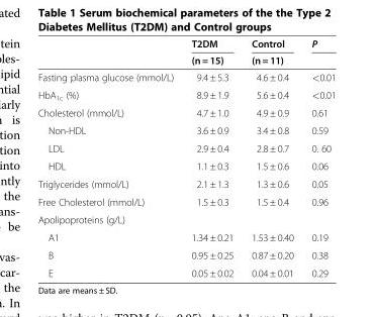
<table><thead><tr><td rowspan="2"></td><td rowspan="2">T2DM (n = 15)</td><td rowspan="2">Control (n = 11)</td><td rowspan="2">P</td></tr><tr></tr></thead><tbody><tr><td>Fasting plasma glucose (mmol/L)</td><td>9.4 ± 5.3</td><td>4.6 ± 0.4</td><td>&lt;0.01</td></tr><tr><td>HbA<sub>1c</sub> (%)</td><td>8.9 ± 1.9</td><td>5.6 ± 0.4</td><td>&lt;0.01</td></tr><tr><td>Cholesterol (mmol/L)</td><td>4.7 ± 1.0</td><td>4.9 ± 0.9</td><td>0.61</td></tr><tr><td>Non-HDL</td><td>3.6 ± 0.9</td><td>3.4 ± 0.8</td><td>0.59</td></tr><tr><td>LDL</td><td>2.9 ± 0.4</td><td>2.8 ± 0.7</td><td>0. 60</td></tr><tr><td>HDL</td><td>1.1 ± 0.3</td><td>1.5 ± 0.6</td><td>0.06</td></tr><tr><td>Triglycerides (mmol/L)</td><td>2.1 ± 1.3</td><td>1.3 ± 0.6</td><td>0.05</td></tr><tr><td>Free Cholesterol (mmol/L)</td><td>1.5 ± 0.3</td><td>1.5 ± 0.4</td><td>0.96</td></tr><tr><td colspan="4">Apolipoproteins (g/L)</td></tr><tr><td>A1</td><td>1.34 ± 0.21</td><td>1.53 ± 0.40</td><td>0.19</td></tr><tr><td>B</td><td>0.95 ± 0.25</td><td>0.87 ± 0.20</td><td>0.38</td></tr><tr><td>E</td><td>0.05 ± 0.02</td><td>0.04 ± 0.01</td><td>0.29</td></tr></tbody></table>